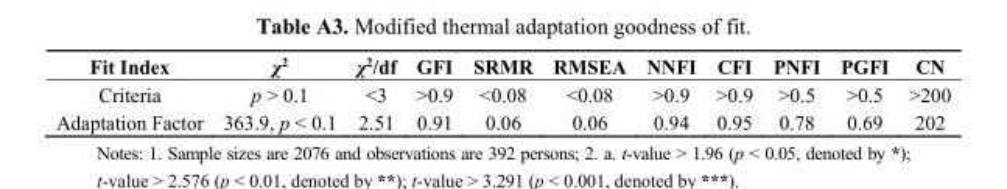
<table><thead><tr><td>Fit Index</td><td>χ<sup>2</sup></td><td>χ<sup>2</sup>/df</td><td>GFI</td><td>SRMR</td><td>RMSEA</td><td>NNFI</td><td>CFI</td><td>PNFI</td><td>PGFI</td><td>CN</td></tr></thead><tbody><tr><td>Criteria</td><td>p &gt; 0.1</td><td>&lt;3</td><td>&gt;0.9</td><td>&lt;0.08</td><td>&lt;0.08</td><td>&gt;0.9</td><td>&gt;0.9</td><td>&gt;0.5</td><td>&gt;0.5</td><td>&gt;200</td></tr><tr><td>Adaptation Factor</td><td>363.9, p &lt; 0.1</td><td>2.51</td><td>0.91</td><td>0.06</td><td>0.06</td><td>0.94</td><td>0.95</td><td>0.78</td><td>0.69</td><td>202</td></tr></tbody></table>